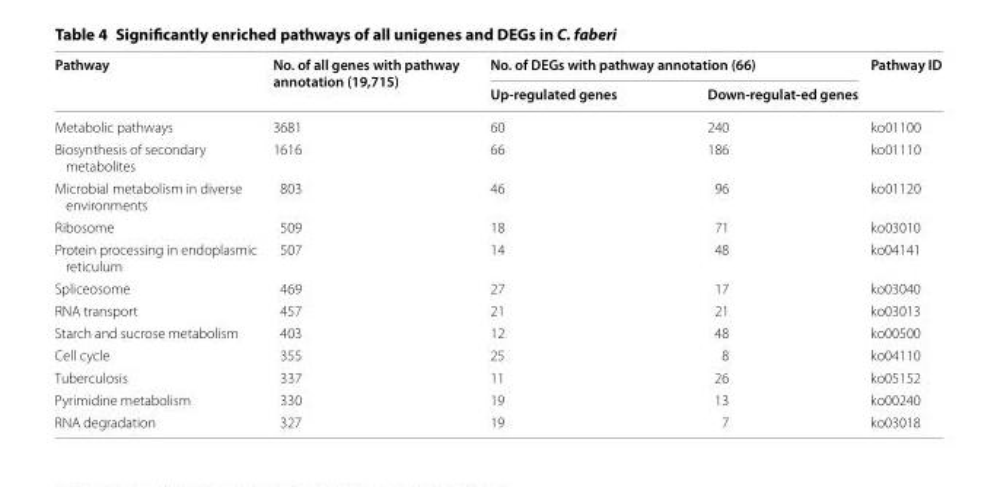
<table><thead><tr><td rowspan="2">Pathway</td><td rowspan="2">No. of all genes with pathway annotation (19,715)</td><td colspan="2">No. of DEGs with pathway annotation (66)</td><td rowspan="2">Pathway ID</td></tr><tr><td>Up‑regulated genes</td><td>Down‑regulat‑ed genes</td></tr></thead><tbody><tr><td>Metabolic pathways</td><td>3681</td><td>60</td><td>240</td><td>ko01100</td></tr><tr><td>Biosynthesis of secondary metabolites</td><td>1616</td><td>66</td><td>186</td><td>ko01110</td></tr><tr><td>Microbial metabolism in diverse environments</td><td>803</td><td>46</td><td>96</td><td>ko01120</td></tr><tr><td>Ribosome</td><td>509</td><td>18</td><td>71</td><td>ko03010</td></tr><tr><td>Protein processing in endoplasmic reticulum</td><td>507</td><td>14</td><td>48</td><td>ko04141</td></tr><tr><td>Spliceosome</td><td>469</td><td>27</td><td>17</td><td>ko03040</td></tr><tr><td>RNA transport</td><td>457</td><td>21</td><td>21</td><td>ko03013</td></tr><tr><td>Starch and sucrose metabolism</td><td>403</td><td>12</td><td>48</td><td>ko00500</td></tr><tr><td>Cell cycle</td><td>355</td><td>25</td><td>8</td><td>ko04110</td></tr><tr><td>Tuberculosis</td><td>337</td><td>11</td><td>26</td><td>ko05152</td></tr><tr><td>Pyrimidine metabolism</td><td>330</td><td>19</td><td>13</td><td>ko00240</td></tr><tr><td>RNA degradation</td><td>327</td><td>19</td><td>7</td><td>ko03018</td></tr></tbody></table>